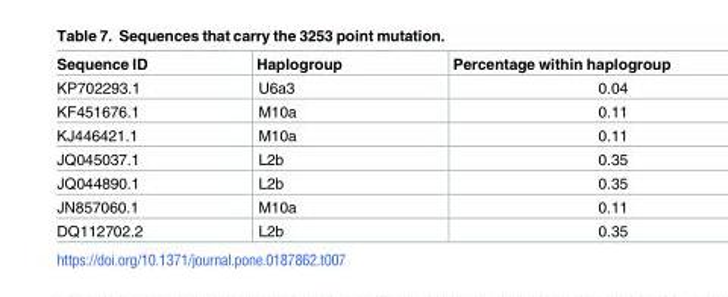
<table><thead><tr><td>Sequence ID</td><td>Haplogroup</td><td>Percentage within haplogroup</td></tr></thead><tbody><tr><td>KP702293.1</td><td>U6a3</td><td>0.04</td></tr><tr><td>KF451676.1</td><td>M10a</td><td>0.11</td></tr><tr><td>KJ446421.1</td><td>M10a</td><td>0.11</td></tr><tr><td>JQ045037.1</td><td>L2b</td><td>0.35</td></tr><tr><td>JQ044890.1</td><td>L2b</td><td>0.35</td></tr><tr><td>JN857060.1</td><td>M10a</td><td>0.11</td></tr><tr><td>DQ112702.2</td><td>L2b</td><td>0.35</td></tr></tbody></table>